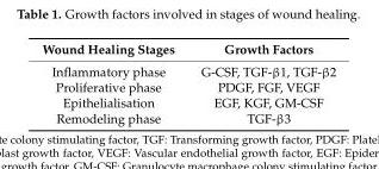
<table><thead><tr><td>Wound Healing Stages</td><td>Growth Factors</td></tr></thead><tbody><tr><td>Inflammatory phase</td><td>G-CSF, TGF-β1, TGF-β2</td></tr><tr><td>Proliferative phase</td><td>PDGF, FGF, VEGF</td></tr><tr><td>Epithelialisation</td><td>EGF, KGF, GM-CSF</td></tr><tr><td>Remodeling phase</td><td>TGF-β3</td></tr></tbody></table>